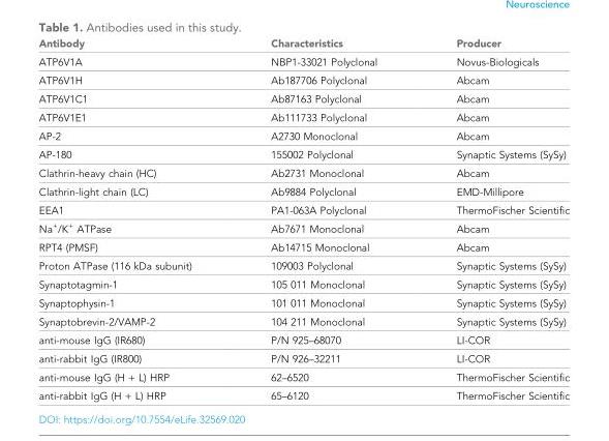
<table><thead><tr><td>Antibody</td><td>Characteristics</td><td>Producer</td></tr></thead><tbody><tr><td>ATP6V1A</td><td>NBP1-33021 Polyclonal</td><td>Novus-Biologicals</td></tr><tr><td>ATP6V1H</td><td>Ab187706 Polyclonal</td><td>Abcam</td></tr><tr><td>ATP6V1C1</td><td>Ab87163 Polyclonal</td><td>Abcam</td></tr><tr><td>ATP6V1E1</td><td>Ab111733 Polyclonal</td><td>Abcam</td></tr><tr><td>AP-2</td><td>A2730 Monoclonal</td><td>Abcam</td></tr><tr><td>AP-180</td><td>155002 Polyclonal</td><td>Synaptic Systems (SySy)</td></tr><tr><td>Clathrin-heavy chain (HC)</td><td>Ab2731 Monoclonal</td><td>Abcam</td></tr><tr><td>Clathrin-light chain (LC)</td><td>Ab9884 Polyclonal</td><td>EMD-Millipore</td></tr><tr><td>EEA1</td><td>PA1-063A Polyclonal</td><td>ThermoFischer Scientific</td></tr><tr><td>Na<sup>+</sup>/K<sup>+</sup> ATPase</td><td>Ab7671 Monoclonal</td><td>Abcam</td></tr><tr><td>RPT4 (PMSF)</td><td>Ab14715 Monoclonal</td><td>Abcam</td></tr><tr><td>Proton ATPase (116 kDa subunit)</td><td>109003 Polyclonal</td><td>Synaptic Systems (SySy)</td></tr><tr><td>Synaptotagmin-1</td><td>105 011 Monoclonal</td><td>Synaptic Systems (SySy)</td></tr><tr><td>Synaptophysin-1</td><td>101 011 Monoclonal</td><td>Synaptic Systems (SySy)</td></tr><tr><td>Synaptobrevin-2/VAMP-2</td><td>104 211 Monoclonal</td><td>Synaptic Systems (SySy)</td></tr><tr><td>anti-mouse IgG (IR680)</td><td>P/N 925–68070</td><td>LI-COR</td></tr><tr><td>anti-rabbit IgG (IR800)</td><td>P/N 926–32211</td><td>LI-COR</td></tr><tr><td>anti-mouse IgG (H + L) HRP</td><td>62–6520</td><td>ThermoFischer Scientific</td></tr><tr><td>anti-rabbit IgG (H + L) HRP</td><td>65–6120</td><td>ThermoFischer Scientific</td></tr></tbody></table>